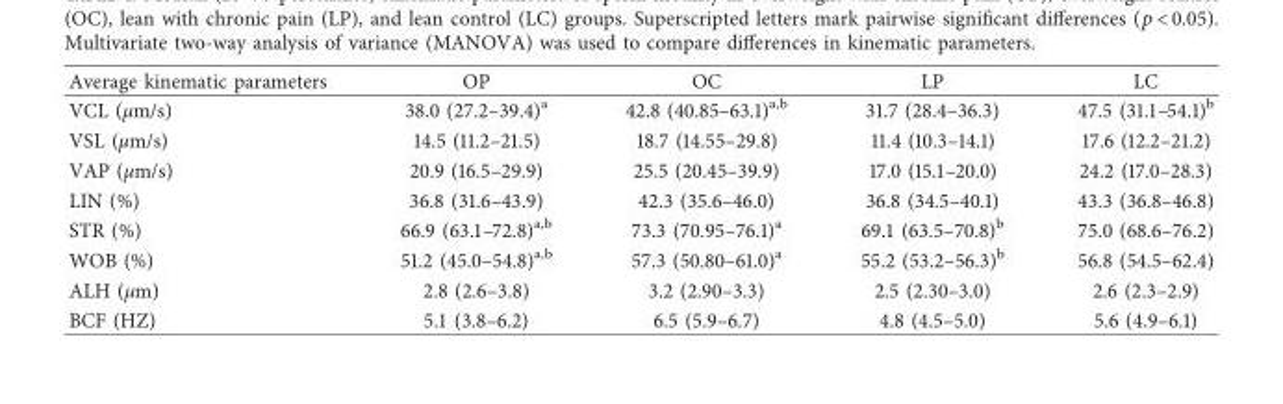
<table><thead><tr><td>Average kinematic parameters</td><td>OP</td><td>OC</td><td>LP</td><td>LC</td></tr></thead><tbody><tr><td>VCL (μm/s)</td><td>38.0 (27.2–39.4)<sup>a</sup></td><td>42.8 (40.85–63.1)<sup>a,b</sup></td><td>31.7 (28.4–36.3)</td><td>47.5 (31.1–54.1)<sup>b</sup></td></tr><tr><td>VSL (μm/s)</td><td>14.5 (11.2–21.5)</td><td>18.7 (14.55–29.8)</td><td>11.4 (10.3–14.1)</td><td>17.6 (12.2–21.2)</td></tr><tr><td>VAP (μm/s)</td><td>20.9 (16.5–29.9)</td><td>25.5 (20.45–39.9)</td><td>17.0 (15.1–20.0)</td><td>24.2 (17.0–28.3)</td></tr><tr><td>LIN (%)</td><td>36.8 (31.6–43.9)</td><td>42.3 (35.6–46.0)</td><td>36.8 (34.5–40.1)</td><td>43.3 (36.8–46.8)</td></tr><tr><td>STR (%)</td><td>66.9 (63.1–72.8)<sup>a,b</sup></td><td>73.3 (70.95–76.1)<sup>a</sup></td><td>69.1 (63.5–70.8)<sup>b</sup></td><td>75.0 (68.6–76.2)</td></tr><tr><td>WOB (%)</td><td>51.2 (45.0–54.8)<sup>a,b</sup></td><td>57.3 (50.80–61.0)<sup>a</sup></td><td>55.2 (53.2–56.3)<sup>b</sup></td><td>56.8 (54.5–62.4)</td></tr><tr><td>ALH (μm)</td><td>2.8 (2.6–3.8)</td><td>3.2 (2.90–3.3)</td><td>2.5 (2.30–3.0)</td><td>2.6 (2.3–2.9)</td></tr><tr><td>BCF (HZ)</td><td>5.1 (3.8–6.2)</td><td>6.5 (5.9–6.7)</td><td>4.8 (4.5–5.0)</td><td>5.6 (4.9–6.1)</td></tr></tbody></table>